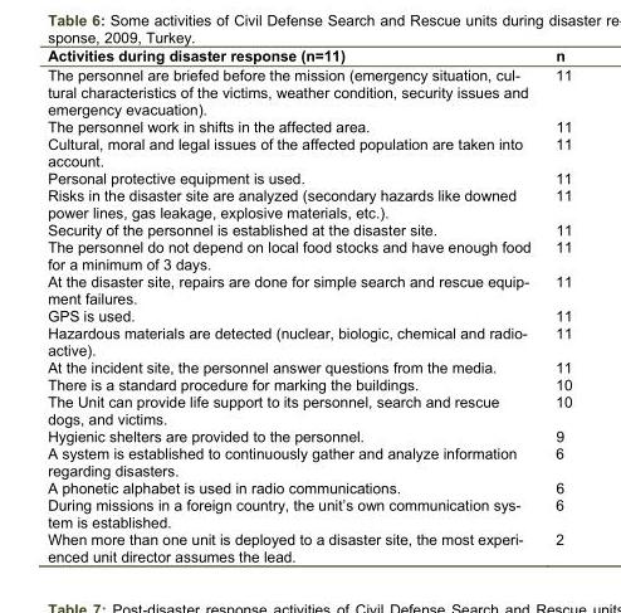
<table><thead><tr><td>Activities during disaster response (n=11)</td><td>n</td></tr></thead><tbody><tr><td>The personnel are briefed before the mission (emergency situation, cul- tural characteristics of the victims, weather condition, security issues and emergency evacuation).</td><td>11</td></tr><tr><td>The personnel work in shifts in the affected area.</td><td>11</td></tr><tr><td>Cultural, moral and legal issues of the affected population are taken into account.</td><td>11</td></tr><tr><td>Personal protective equipment is used.</td><td>11</td></tr><tr><td>Risks in the disaster site are analyzed (secondary hazards like downed power lines, gas leakage, explosive materials, etc.).</td><td>11</td></tr><tr><td>Security of the personnel is established at the disaster site.</td><td>11</td></tr><tr><td>The personnel do not depend on local food stocks and have enough food for a minimum of 3 days.</td><td>11</td></tr><tr><td>At the disaster site, repairs are done for simple search and rescue equip- ment failures.</td><td>11</td></tr><tr><td>GPS is used.</td><td>11</td></tr><tr><td>Hazardous materials are detected (nuclear, biologic, chemical and radio- active).</td><td>11</td></tr><tr><td>At the incident site, the personnel answer questions from the media.</td><td>11</td></tr><tr><td>There is a standard procedure for marking the buildings.</td><td>10</td></tr><tr><td>The Unit can provide life support to its personnel, search and rescue dogs, and victims.</td><td>10</td></tr><tr><td>Hygienic shelters are provided to the personnel.</td><td>9</td></tr><tr><td>A system is established to continuously gather and analyze information regarding disasters.</td><td>6</td></tr><tr><td>A phonetic alphabet is used in radio communications.</td><td>6</td></tr><tr><td>During missions in a foreign country, the unit’s own communication sys- tem is established.</td><td>6</td></tr><tr><td>When more than one unit is deployed to a disaster site, the most experi- enced unit director assumes the lead.</td><td>2</td></tr></tbody></table>